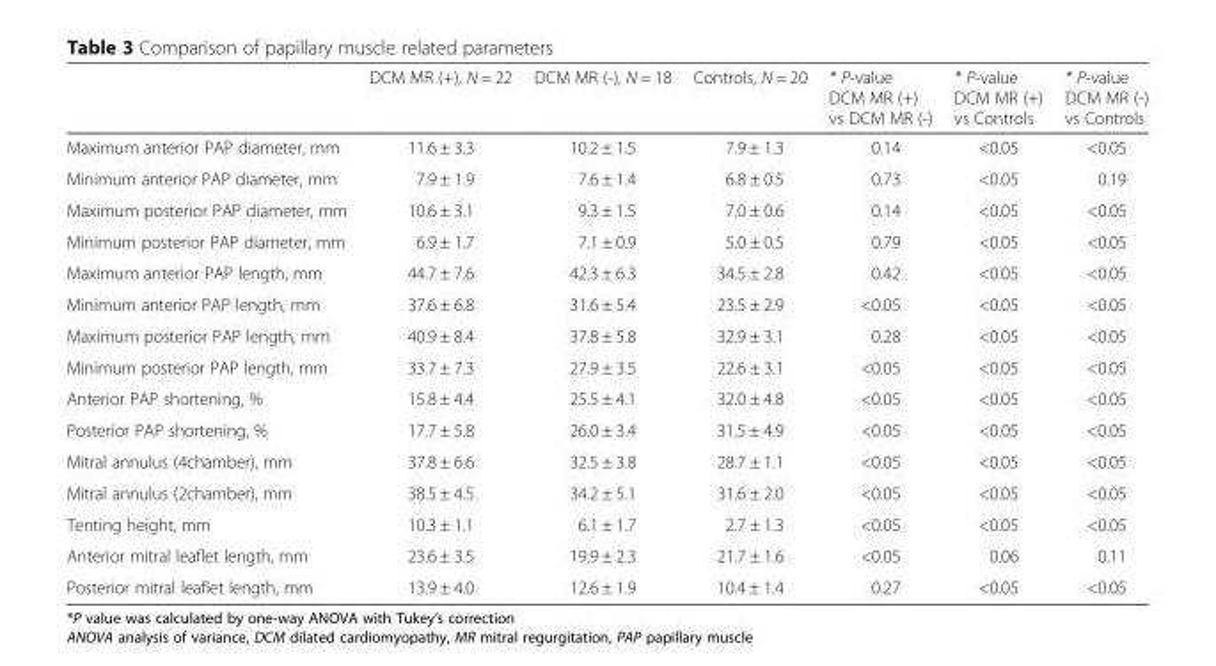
<table><thead><tr><td></td><td>DCM MR (+), N = 22</td><td>DCM MR (-), N = 18</td><td>Controls, N = 20</td><td>* P-value DCM MR (+) vs DCM MR (-)</td><td>* P-value DCM MR (+) vs Controls</td><td>* P-value DCM MR (-) vs Controls</td></tr></thead><tbody><tr><td>Maximum anterior PAP diameter, mm</td><td>11.6 ± 3.3</td><td>10.2 ± 1.5</td><td>7.9 ± 1.3</td><td>0.14</td><td>&lt;0.05</td><td>&lt;0.05</td></tr><tr><td>Minimum anterior PAP diameter, mm</td><td>7.9 ± 1.9</td><td>7.6 ± 1.4</td><td>6.8 ± 0.5</td><td>0.73</td><td>&lt;0.05</td><td>0.19</td></tr><tr><td>Maximum posterior PAP diameter, mm</td><td>10.6 ± 3.1</td><td>9.3 ± 1.5</td><td>7.0 ± 0.6</td><td>0.14</td><td>&lt;0.05</td><td>&lt;0.05</td></tr><tr><td>Minimum posterior PAP diameter, mm</td><td>6.9 ± 1.7</td><td>7.1 ± 0.9</td><td>5.0 ± 0.5</td><td>0.79</td><td>&lt;0.05</td><td>&lt;0.05</td></tr><tr><td>Maximum anterior PAP length, mm</td><td>44.7 ± 7.6</td><td>42.3 ± 6.3</td><td>34.5 ± 2.8</td><td>0.42</td><td>&lt;0.05</td><td>&lt;0.05</td></tr><tr><td>Minimum anterior PAP length, mm</td><td>37.6 ± 6.8</td><td>31.6 ± 5.4</td><td>23.5 ± 2.9</td><td>&lt;0.05</td><td>&lt;0.05</td><td>&lt;0.05</td></tr><tr><td>Maximum posterior PAP length, mm</td><td>40.9 ± 8.4</td><td>37.8 ± 5.8</td><td>32.9 ± 3.1</td><td>0.28</td><td>&lt;0.05</td><td>&lt;0.05</td></tr><tr><td>Minimum posterior PAP length, mm</td><td>33.7 ± 7.3</td><td>27.9 ± 3.5</td><td>22.6 ± 3.1</td><td>&lt;0.05</td><td>&lt;0.05</td><td>&lt;0.05</td></tr><tr><td>Anterior PAP shortening, %</td><td>15.8 ± 4.4</td><td>25.5 ± 4.1</td><td>32.0 ± 4.8</td><td>&lt;0.05</td><td>&lt;0.05</td><td>&lt;0.05</td></tr><tr><td>Posterior PAP shortening, %</td><td>17.7 ± 5.8</td><td>26.0 ± 3.4</td><td>31.5 ± 4.9</td><td>&lt;0.05</td><td>&lt;0.05</td><td>&lt;0.05</td></tr><tr><td>Mitral annulus (4chamber), mm</td><td>37.8 ± 6.6</td><td>32.5 ± 3.8</td><td>28.7 ± 1.1</td><td>&lt;0.05</td><td>&lt;0.05</td><td>&lt;0.05</td></tr><tr><td>Mitral annulus (2chamber), mm</td><td>38.5 ± 4.5</td><td>34.2 ± 5.1</td><td>31.6 ± 2.0</td><td>&lt;0.05</td><td>&lt;0.05</td><td>&lt;0.05</td></tr><tr><td>Tenting height, mm</td><td>10.3 ± 1.1</td><td>6.1 ± 1.7</td><td>2.7 ± 1.3</td><td>&lt;0.05</td><td>&lt;0.05</td><td>&lt;0.05</td></tr><tr><td>Anterior mitral leaflet length, mm</td><td>23.6 ± 3.5</td><td>19.9 ± 2.3</td><td>21.7 ± 1.6</td><td>&lt;0.05</td><td>0.06</td><td>0.11</td></tr><tr><td>Posterior mitral leaflet length, mm</td><td>13.9 ± 4.0</td><td>12.6 ± 1.9</td><td>10.4 ± 1.4</td><td>0.27</td><td>&lt;0.05</td><td>&lt;0.05</td></tr></tbody></table>